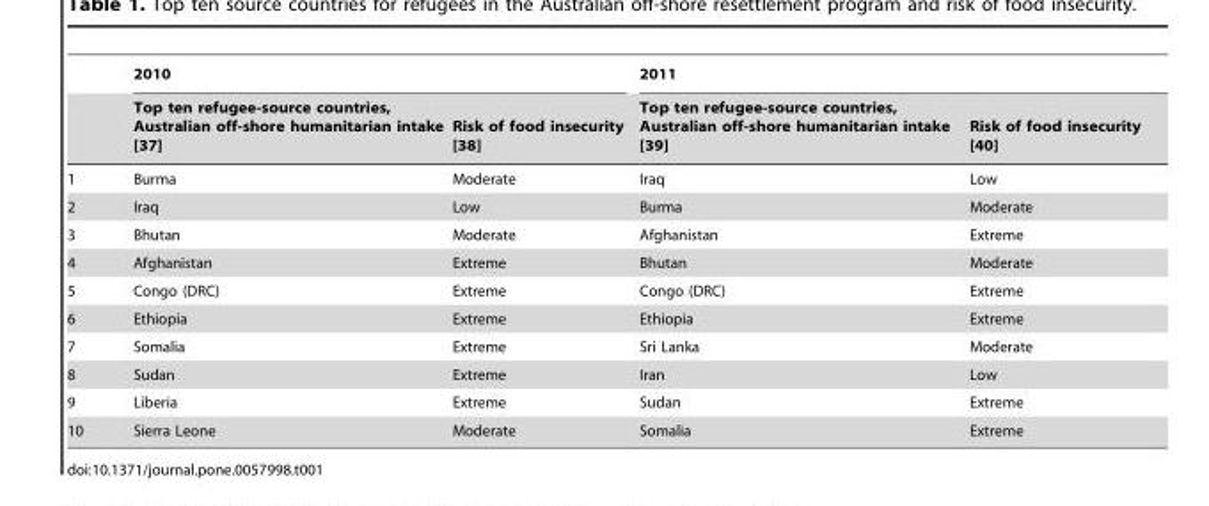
<table><thead><tr><td rowspan="2"></td><td colspan="2">2010</td><td colspan="2">2011</td></tr><tr><td>Top ten refugee-source countries, Australian off-shore humanitarian intake [37]</td><td>Risk of food insecurity [38]</td><td>Top ten refugee-source countries, Australian off-shore humanitarian intake [39]</td><td>Risk of food insecurity [40]</td></tr></thead><tbody><tr><td>1</td><td>Burma</td><td>Moderate</td><td>Iraq</td><td>Low</td></tr><tr><td>2</td><td>Iraq</td><td>Low</td><td>Burma</td><td>Moderate</td></tr><tr><td>3</td><td>Bhutan</td><td>Moderate</td><td>Afghanistan</td><td>Extreme</td></tr><tr><td>4</td><td>Afghanistan</td><td>Extreme</td><td>Bhutan</td><td>Moderate</td></tr><tr><td>5</td><td>Congo (DRC)</td><td>Extreme</td><td>Congo (DRC)</td><td>Extreme</td></tr><tr><td>6</td><td>Ethiopia</td><td>Extreme</td><td>Ethiopia</td><td>Extreme</td></tr><tr><td>7</td><td>Somalia</td><td>Extreme</td><td>Sri Lanka</td><td>Moderate</td></tr><tr><td>8</td><td>Sudan</td><td>Extreme</td><td>Iran</td><td>Low</td></tr><tr><td>9</td><td>Liberia</td><td>Extreme</td><td>Sudan</td><td>Extreme</td></tr><tr><td>10</td><td>Sierra Leone</td><td>Moderate</td><td>Somalia</td><td>Extreme</td></tr></tbody></table>